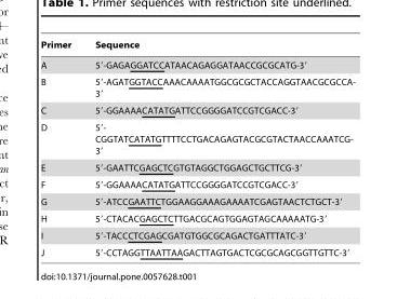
<table><thead><tr><td>Primer</td><td>Sequence</td></tr></thead><tbody><tr><td>A</td><td>5′-GAGAGGATCCATAACAGAGGATAACCGCGCATG-3′</td></tr><tr><td>B</td><td>5′-AGATGGTACCAAACAAAATGGCGCGCTACCAGGTAACGCGCCA- 3′</td></tr><tr><td>C</td><td>5′-GGAAAACATATGATTCCGGGGATCCGTCGACC-3′</td></tr><tr><td>D</td><td>5′- CGGTATCATATGTTTTCCTGACAGAGTACGCGTACTAACCAAATCG- 3′</td></tr><tr><td>E</td><td>5′-GAATTCGAGCTCGTGTAGGCTGGAGCTGCTTCG-3′</td></tr><tr><td>F</td><td>5′-GGAAAACATATGATTCCGGGGATCCGTCGACC-3′</td></tr><tr><td>G</td><td>5′-ATCCGAATTCTGGAAGGAAAGAAAATCGAGTAACTCTGCT-3′</td></tr><tr><td>H</td><td>5′-CTACACGAGCTCTTGACGCAGTGGAGTAGCAAAAATG-3′</td></tr><tr><td>I</td><td>5′-TACCCTCGAGCGATGTGGCGCAGACTGATTTATC-3′</td></tr><tr><td>J</td><td>5′-CCTAGGTTAATTAAGACTTAGTGACTCGCGCAGCGGTTGTTC-3′</td></tr></tbody></table>